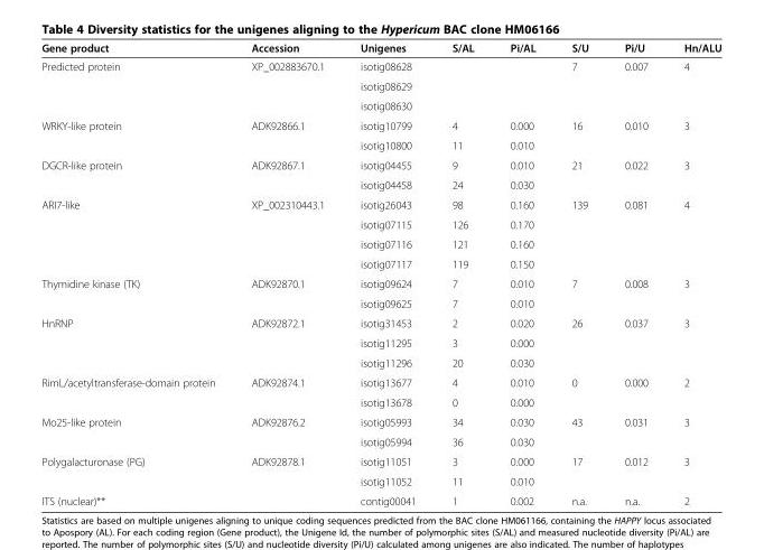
<table><thead><tr><td>Gene product</td><td>Accession</td><td>Unigenes</td><td>S/AL</td><td>Pi/AL</td><td>S/U</td><td>Pi/U</td><td>Hn/ALU</td></tr></thead><tbody><tr><td rowspan="3">Predicted protein</td><td rowspan="3">XP_002883670.1</td><td>isotig08628</td><td></td><td></td><td rowspan="3">7</td><td rowspan="3">0.007</td><td rowspan="3">4</td></tr><tr><td>isotig08629</td><td></td><td></td></tr><tr><td>isotig08630</td><td></td><td></td></tr><tr><td rowspan="2">WRKY-like protein</td><td rowspan="2">ADK92866.1</td><td>isotig10799</td><td>4</td><td>0.000</td><td rowspan="2">16</td><td rowspan="2">0.010</td><td rowspan="2">3</td></tr><tr><td>isotig10800</td><td>11</td><td>0.010</td></tr><tr><td rowspan="2">DGCR-like protein</td><td rowspan="2">ADK92867.1</td><td>isotig04455</td><td>9</td><td>0.010</td><td rowspan="2">21</td><td rowspan="2">0.022</td><td rowspan="2">3</td></tr><tr><td>isotig04458</td><td>24</td><td>0.030</td></tr><tr><td rowspan="4">ARI7-like</td><td rowspan="4">XP_002310443.1</td><td>isotig26043</td><td>98</td><td>0.160</td><td rowspan="4">139</td><td rowspan="4">0.081</td><td rowspan="4">4</td></tr><tr><td>isotig07115</td><td>126</td><td>0.170</td></tr><tr><td>isotig07116</td><td>121</td><td>0.160</td></tr><tr><td>isotig07117</td><td>119</td><td>0.150</td></tr><tr><td rowspan="2">Thymidine kinase (TK)</td><td rowspan="2">ADK92870.1</td><td>isotig09624</td><td>7</td><td>0.010</td><td rowspan="2">7</td><td rowspan="2">0.008</td><td rowspan="2">3</td></tr><tr><td>isotig09625</td><td>7</td><td>0.010</td></tr><tr><td rowspan="3">HnRNP</td><td rowspan="3">ADK92872.1</td><td>isotig31453</td><td>2</td><td>0.020</td><td rowspan="3">26</td><td rowspan="3">0.037</td><td rowspan="3">3</td></tr><tr><td>isotig11295</td><td>3</td><td>0.000</td></tr><tr><td>isotig11296</td><td>20</td><td>0.030</td></tr><tr><td rowspan="2">RimL/acetyltransferase-domain protein</td><td rowspan="2">ADK92874.1</td><td>isotig13677</td><td>4</td><td>0.010</td><td rowspan="2">0</td><td rowspan="2">0.000</td><td rowspan="2">2</td></tr><tr><td>isotig13678</td><td>0</td><td>0.000</td></tr><tr><td rowspan="2">Mo25-like protein</td><td rowspan="2">ADK92876.2</td><td>isotig05993</td><td>34</td><td>0.030</td><td rowspan="2">43</td><td rowspan="2">0.031</td><td rowspan="2">3</td></tr><tr><td>isotig05994</td><td>36</td><td>0.030</td></tr><tr><td rowspan="2">Polygalacturonase (PG)</td><td rowspan="2">ADK92878.1</td><td>isotig11051</td><td>3</td><td>0.000</td><td rowspan="2">17</td><td rowspan="2">0.012</td><td rowspan="2">3</td></tr><tr><td>isotig11052</td><td>11</td><td>0.010</td></tr><tr><td>ITS (nuclear)**</td><td></td><td>contig00041</td><td>1</td><td>0.002</td><td>n.a.</td><td>n.a.</td><td>2</td></tr></tbody></table>